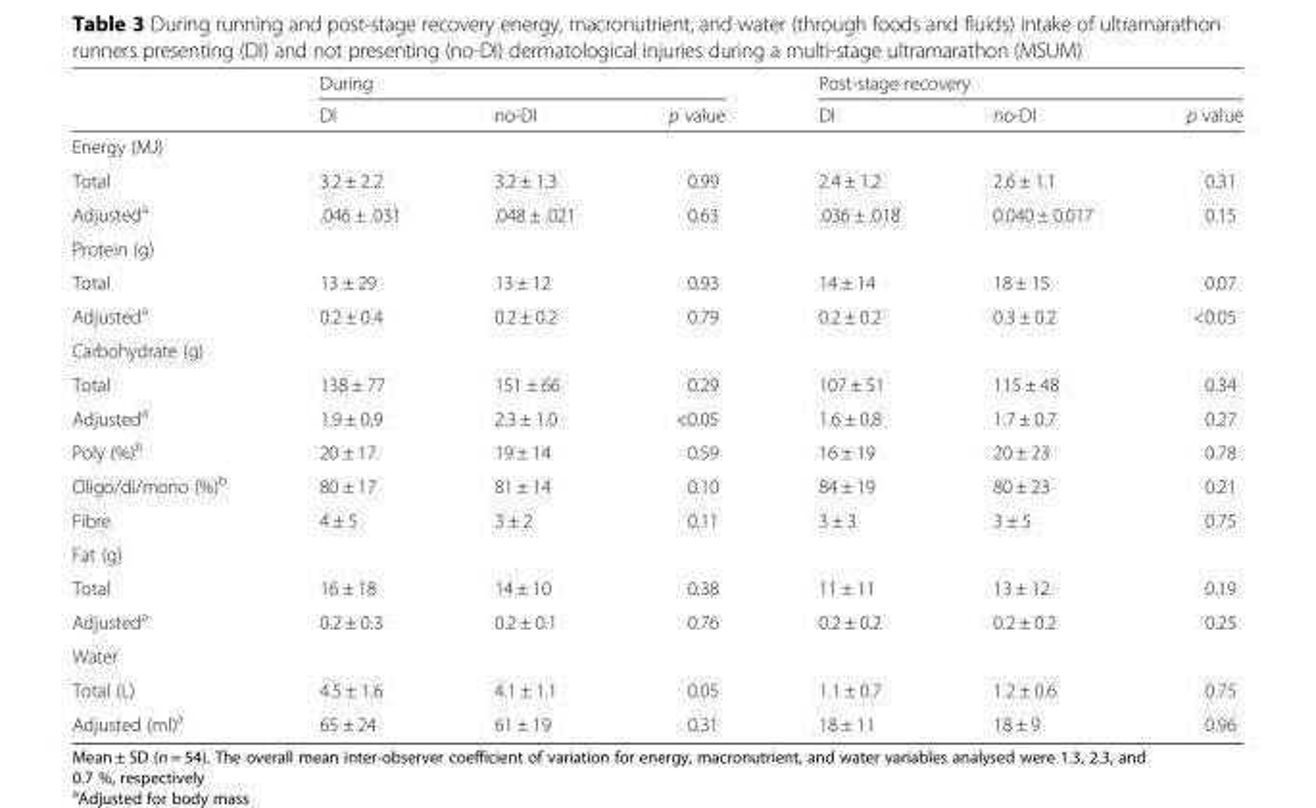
<table><thead><tr><td rowspan="2"></td><td colspan="3">During</td><td colspan="3">Post-stage recovery</td></tr><tr><td>DI</td><td>no-DI</td><td>p value</td><td>DI</td><td>no-DI</td><td>p value</td></tr></thead><tbody><tr><td colspan="7">Energy (MJ)</td></tr><tr><td>Total</td><td>3.2 ± 2.2</td><td>3.2 ± 1.3</td><td>0.99</td><td>2.4 ± 1.2</td><td>2.6 ± 1.1</td><td>0.31</td></tr><tr><td>Adjusted<sup>a</sup></td><td>.046 ± .031</td><td>.048 ± .021</td><td>0.63</td><td>.036 ± .018</td><td>0.040 ± 0.017</td><td>0.15</td></tr><tr><td colspan="7">Protein (g)</td></tr><tr><td>Total</td><td>13 ± 29</td><td>13 ± 12</td><td>0.93</td><td>14 ± 14</td><td>18 ± 15</td><td>0.07</td></tr><tr><td>Adjusted<sup>a</sup></td><td>0.2 ± 0.4</td><td>0.2 ± 0.2</td><td>0.79</td><td>0.2 ± 0.2</td><td>0.3 ± 0.2</td><td>&lt;0.05</td></tr><tr><td colspan="7">Carbohydrate (g)</td></tr><tr><td>Total</td><td>138 ± 77</td><td>151 ± 66</td><td>0.29</td><td>107 ± 51</td><td>115 ± 48</td><td>0.34</td></tr><tr><td>Adjusted<sup>a</sup></td><td>1.9 ± 0.9</td><td>2.3 ± 1.0</td><td>&lt;0.05</td><td>1.6 ± 0.8</td><td>1.7 ± 0.7</td><td>0.27</td></tr><tr><td>Poly (%)<sup>b</sup></td><td>20 ± 17</td><td>19 ± 14</td><td>0.59</td><td>16 ± 19</td><td>20 ± 23</td><td>0.78</td></tr><tr><td>Oligo/di/mono (%)<sup>b</sup></td><td>80 ± 17</td><td>81 ± 14</td><td>0.10</td><td>84 ± 19</td><td>80 ± 23</td><td>0.21</td></tr><tr><td>Fibre</td><td>4 ± 5</td><td>3 ± 2</td><td>0.11</td><td>3 ± 3</td><td>3 ± 5</td><td>0.75</td></tr><tr><td colspan="7">Fat (g)</td></tr><tr><td>Total</td><td>16 ± 18</td><td>14 ± 10</td><td>0.38</td><td>11 ± 11</td><td>13 ± 12</td><td>0.19</td></tr><tr><td>Adjusted<sup>a</sup></td><td>0.2 ± 0.3</td><td>0.2 ± 0.1</td><td>0.76</td><td>0.2 ± 0.2</td><td>0.2 ± 0.2</td><td>0.25</td></tr><tr><td colspan="7">Water</td></tr><tr><td>Total (L)</td><td>4.5 ± 1.6</td><td>4.1 ± 1.1</td><td>0.05</td><td>1.1 ± 0.7</td><td>1.2 ± 0.6</td><td>0.75</td></tr><tr><td>Adjusted (ml)<sup>a</sup></td><td>65 ± 24</td><td>61 ± 19</td><td>0.31</td><td>18 ± 11</td><td>18 ± 9</td><td>0.96</td></tr></tbody></table>